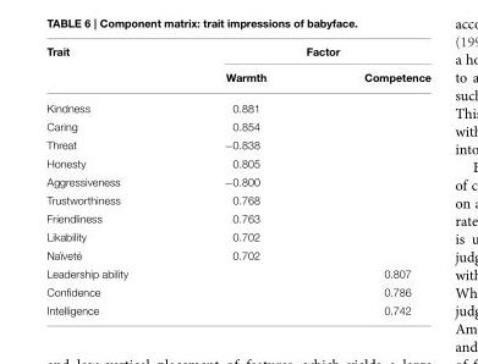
<table><thead><tr><td rowspan="2">Trait</td><td colspan="2">Factor</td></tr><tr><td>Warmth</td><td>Competence</td></tr></thead><tbody><tr><td>Kindness</td><td>0.881</td><td></td></tr><tr><td>Caring</td><td>0.854</td><td></td></tr><tr><td>Threat</td><td>−0.838</td><td></td></tr><tr><td>Honesty</td><td>0.805</td><td></td></tr><tr><td>Aggressiveness</td><td>−0.800</td><td></td></tr><tr><td>Trustworthiness</td><td>0.768</td><td></td></tr><tr><td>Friendliness</td><td>0.763</td><td></td></tr><tr><td>Likability</td><td>0.702</td><td></td></tr><tr><td>Naïveté</td><td>0.702</td><td></td></tr><tr><td>Leadership ability</td><td></td><td>0.807</td></tr><tr><td>Confidence</td><td></td><td>0.786</td></tr><tr><td>Intelligence</td><td></td><td>0.742</td></tr></tbody></table>